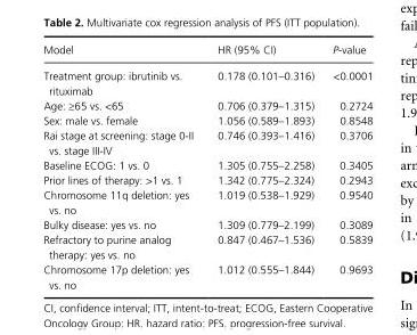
<table><thead><tr><td>Model</td><td>HR (95% CI)</td><td>P- value</td></tr></thead><tbody><tr><td>Treatment group: ibrutinib vs. rituximab</td><td>0.178 (0.101–0.316)</td><td>&lt;0.0001</td></tr><tr><td>Age: ≥65 vs. &lt;65</td><td>0.706 (0.379–1.315)</td><td>0.2724</td></tr><tr><td>Sex: male vs. female</td><td>1.056 (0.589–1.893)</td><td>0.8548</td></tr><tr><td>Rai stage at screening: stage 0- II vs. stage III- IV</td><td>0.746 (0.393–1.416)</td><td>0.3706</td></tr><tr><td>Baseline ECOG: 1 vs. 0</td><td>1.305 (0.755–2.258)</td><td>0.3405</td></tr><tr><td>Prior lines of therapy: &gt;1 vs. 1</td><td>1.342 (0.775–2.324)</td><td>0.2943</td></tr><tr><td>Chromosome 11q deletion: yes vs. no</td><td>1.019 (0.538–1.929)</td><td>0.9540</td></tr><tr><td>Bulky disease: yes vs. no</td><td>1.309 (0.779–2.199)</td><td>0.3089</td></tr><tr><td>Refractory to purine analog therapy: yes vs. no</td><td>0.847 (0.467–1.536)</td><td>0.5839</td></tr><tr><td>Chromosome 17p deletion: yes vs. no</td><td>1.012 (0.555–1.844)</td><td>0.9693</td></tr></tbody></table>